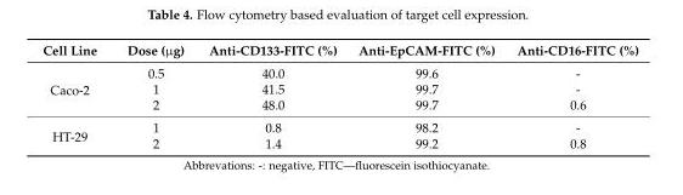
<table><thead><tr><td>Cell Line</td><td>Dose (µg)</td><td>Anti-CD133-FITC (%)</td><td>Anti-EpCAM-FITC (%)</td><td>Anti-CD16-FITC (%)</td></tr></thead><tbody><tr><td rowspan="3">Caco-2</td><td>0.5</td><td>40.0</td><td>99.6</td><td>-</td></tr><tr><td>1</td><td>41.5</td><td>99.7</td><td>-</td></tr><tr><td>2</td><td>48.0</td><td>99.7</td><td>0.6</td></tr><tr><td rowspan="2">HT-29</td><td>1</td><td>0.8</td><td>98.2</td><td>-</td></tr><tr><td>2</td><td>1.4</td><td>99.2</td><td>0.8</td></tr></tbody></table>